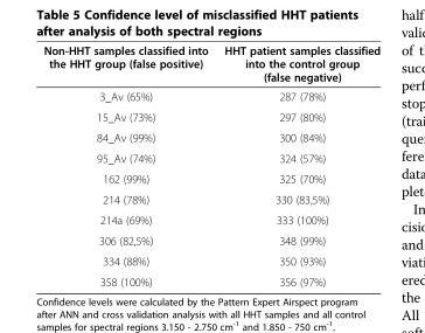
<table><thead><tr><td>Non-HHT samples classified into the HHT group (false positive)</td><td>HHT patient samples classified into the control group (false negative)</td></tr></thead><tbody><tr><td>3_Av (65%)</td><td>287 (78%)</td></tr><tr><td>15_Av (73%)</td><td>297 (80%)</td></tr><tr><td>84_Av (99%)</td><td>300 (84%)</td></tr><tr><td>95_Av (74%)</td><td>324 (57%)</td></tr><tr><td>162 (99%)</td><td>325 (70%)</td></tr><tr><td>214 (78%)</td><td>330 (83,5%)</td></tr><tr><td>214a (69%)</td><td>333 (100%)</td></tr><tr><td>306 (82,5%)</td><td>348 (99%)</td></tr><tr><td>334 (88%)</td><td>350 (93%)</td></tr><tr><td>358 (100%)</td><td>356 (97%)</td></tr></tbody></table>